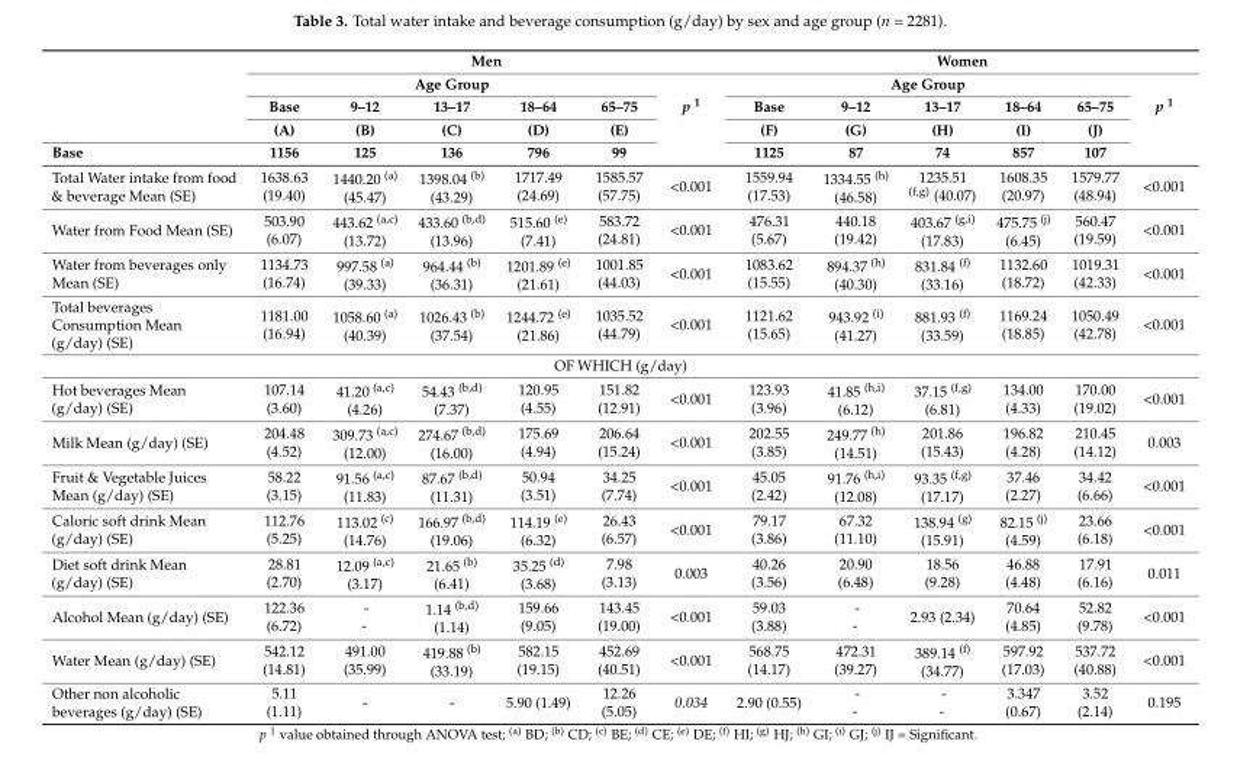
<table><thead><tr><td rowspan="5">Base</td><td colspan="6">Men</td><td colspan="6">Women</td></tr><tr><td colspan="5">Age Group</td><td rowspan="4">p <sup>1</sup></td><td colspan="5">Age Group</td><td rowspan="4">p <sup>1</sup></td></tr><tr><td rowspan="3">Base (A) 1156</td><td rowspan="3">9–12 (B) 125</td><td rowspan="3">13–17 (C) 136</td><td rowspan="3">18–64 (D) 796</td><td rowspan="3">65–75 (E) 99</td><td rowspan="3">Base (F) 1125</td><td rowspan="3">9–12 (G) 87</td><td rowspan="3">13–17 (H) 74</td><td rowspan="3">18–64 (I) 857</td><td rowspan="3">65–75 (J) 107</td></tr><tr></tr><tr></tr></thead><tbody><tr><td>Total Water intake from food &amp; beverage Mean (SE)</td><td>1638.63 (19.40)</td><td>1440.20 <sup>(a)</sup> (45.47)</td><td>1398.04 <sup>(b)</sup> (43.29)</td><td>1717.49 (24.69)</td><td>1585.57 (57.75)</td><td>&lt;0.001</td><td>1559.94 (17.53)</td><td>1334.55 <sup>(h)</sup> (46.58)</td><td>1235.51 <sup>(f,g)</sup> (40.07)</td><td>1608.35 (20.97)</td><td>1579.77 (48.94)</td><td>&lt;0.001</td></tr><tr><td>Water from Food Mean (SE)</td><td>503.90 (6.07)</td><td>443.62 <sup>(a,c)</sup> (13.72)</td><td>433.60 <sup>(b,d)</sup> (13.96)</td><td>515.60 <sup>(e)</sup> (7.41)</td><td>583.72 (24.81)</td><td>&lt;0.001</td><td>476.31 (5.67)</td><td>440.18 (19.42)</td><td>403.67 <sup>(g,i)</sup> (17.83)</td><td>475.75 <sup>(j)</sup> (6.45)</td><td>560.47 (19.59)</td><td>&lt;0.001</td></tr><tr><td>Water from beverages only Mean (SE)</td><td>1134.73 (16.74)</td><td>997.58 <sup>(a)</sup> (39.33)</td><td>964.44 <sup>(b)</sup> (36.31)</td><td>1201.89 <sup>(e)</sup> (21.61)</td><td>1001.85 (44.03)</td><td>&lt;0.001</td><td>1083.62 (15.55)</td><td>894.37 <sup>(h)</sup> (40.30)</td><td>831.84 <sup>(f)</sup> (33.16)</td><td>1132.60 (18.72)</td><td>1019.31 (42.33)</td><td>&lt;0.001</td></tr><tr><td>Total beverages Consumption Mean (g/day) (SE)</td><td>1181.00 (16.94)</td><td>1058.60 <sup>(a)</sup> (40.39)</td><td>1026.43 <sup>(b)</sup> (37.54)</td><td>1244.72 <sup>(e)</sup> (21.86)</td><td>1035.52 (44.79)</td><td>&lt;0.001</td><td>1121.62 (15.65)</td><td>943.92 <sup>(i)</sup> (41.27)</td><td>881.93 <sup>(f)</sup> (33.59)</td><td>1169.24 (18.85)</td><td>1050.49 (42.78)</td><td>&lt;0.001</td></tr><tr><td colspan="13">OF WHICH (g/day)</td></tr><tr><td>Hot beverages Mean (g/day) (SE)</td><td>107.14 (3.60)</td><td>41.20 <sup>(a,c)</sup> (4.26)</td><td>54.43 <sup>(b,d)</sup> (7.37)</td><td>120.95 (4.55)</td><td>151.82 (12.91)</td><td>&lt;0.001</td><td>123.93 (3.96)</td><td>41.85 <sup>(h,i)</sup> (6.12)</td><td>37.15 <sup>(f,g)</sup> (6.81)</td><td>134.00 (4.33)</td><td>170.00 (19.02)</td><td>&lt;0.001</td></tr><tr><td>Milk Mean (g/day) (SE)</td><td>204.48 (4.52)</td><td>309.73 <sup>(a,c)</sup> (12.00)</td><td>274.67 <sup>(b,d)</sup> (16.00)</td><td>175.69 (4.94)</td><td>206.64 (15.24)</td><td>&lt;0.001</td><td>202.55 (3.85)</td><td>249.77 <sup>(h)</sup> (14.51)</td><td>201.86 (15.43)</td><td>196.82 (4.28)</td><td>210.45 (14.12)</td><td>0.003</td></tr><tr><td>Fruit &amp; Vegetable Juices Mean (g/day) (SE)</td><td>58.22 (3.15)</td><td>91.56 <sup>(a,c)</sup> (11.83)</td><td>87.67 <sup>(b,d)</sup> (11.31)</td><td>50.94 (3.51)</td><td>34.25 (7.74)</td><td>&lt;0.001</td><td>45.05 (2.42)</td><td>91.76 <sup>(h,i)</sup> (12.08)</td><td>93.35 <sup>(f,g)</sup> (17.17)</td><td>37.46 (2.27)</td><td>34.42 (6.66)</td><td>&lt;0.001</td></tr><tr><td>Caloric soft drink Mean (g/day) (SE)</td><td>112.76 (5.25)</td><td>113.02 <sup>(c)</sup> (14.76)</td><td>166.97 <sup>(b,d)</sup> (19.06)</td><td>114.19 <sup>(e)</sup> (6.32)</td><td>26.43 (6.57)</td><td>&lt;0.001</td><td>79.17 (3.86)</td><td>67.32 (11.10)</td><td>138.94 <sup>(g)</sup> (15.91)</td><td>82.15 <sup>(j)</sup> (4.59)</td><td>23.66 (6.18)</td><td>&lt;0.001</td></tr><tr><td>Diet soft drink Mean (g/day) (SE)</td><td>28.81 (2.70)</td><td>12.09 <sup>(a,c)</sup> (3.17)</td><td>21.65 <sup>(b)</sup> (6.41)</td><td>35.25 <sup>(d)</sup> (3.68)</td><td>7.98 (3.13)</td><td>0.003</td><td>40.26 (3.56)</td><td>20.90 (6.48)</td><td>18.56 (9.28)</td><td>46.88 (4.48)</td><td>17.91 (6.16)</td><td>0.011</td></tr><tr><td>Alcohol Mean (g/day) (SE)</td><td>122.36 (6.72)</td><td>- -</td><td>1.14 <sup>(b,d)</sup> (1.14)</td><td>159.66 (9.05)</td><td>143.45 (19.00)</td><td>&lt;0.001</td><td>59.03 (3.88)</td><td>- -</td><td>2.93 (2.34)</td><td>70.64 (4.85)</td><td>52.82 (9.78)</td><td>&lt;0.001</td></tr><tr><td>Water Mean (g/day) (SE)</td><td>542.12 (14.81)</td><td>491.00 (35.99)</td><td>419.88 <sup>(b)</sup> (33.19)</td><td>582.15 (19.15)</td><td>452.69 (40.51)</td><td>&lt;0.001</td><td>568.75 (14.17)</td><td>472.31 (39.27)</td><td>389.14 <sup>(f)</sup> (34.77)</td><td>597.92 (17.03)</td><td>537.72 (40.88)</td><td>&lt;0.001</td></tr><tr><td>Other non alcoholic beverages (g/day) (SE)</td><td>5.11 (1.11)</td><td>-</td><td>-</td><td>5.90 (1.49)</td><td>12.26 (5.05)</td><td>0.034</td><td>2.90 (0.55)</td><td>- -</td><td>- -</td><td>3.347 (0.67)</td><td>3.52 (2.14)</td><td>0.195</td></tr></tbody></table>